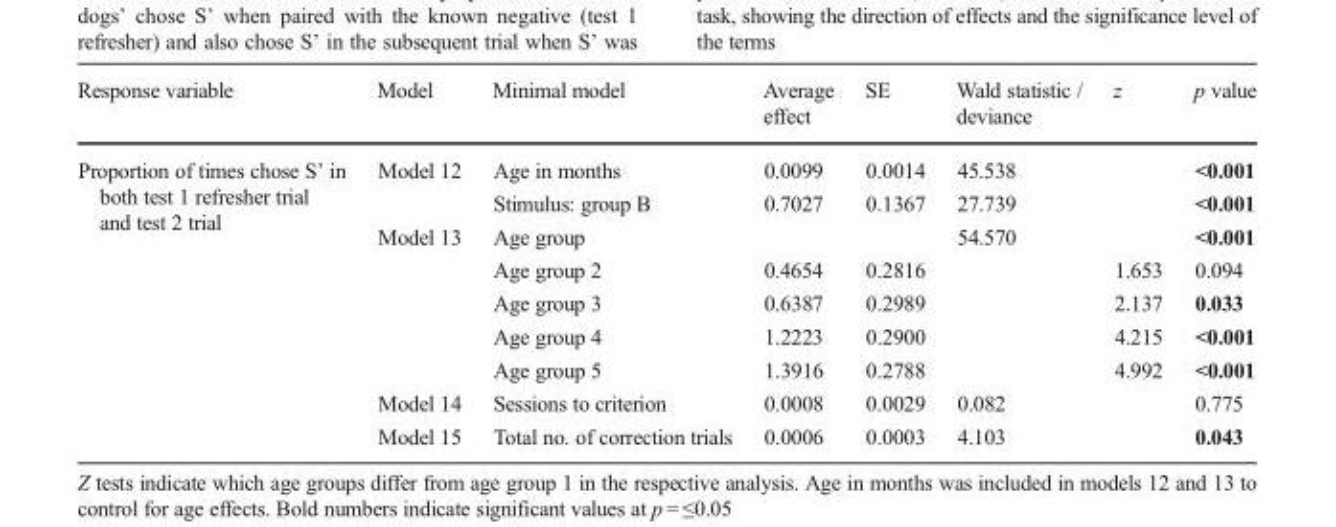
<table><thead><tr><td>Response variable</td><td>Model</td><td>Minimal model</td><td>Average effect</td><td>SE</td><td>Wald statistic / deviance</td><td>z</td><td>p value</td></tr></thead><tbody><tr><td rowspan="9">Proportion of times chose S’ in both test 1 refresher trial and test 2 trial</td><td rowspan="2">Model 12</td><td>Age in months</td><td>0.0099</td><td>0.0014</td><td>45.538</td><td></td><td>&lt;0.001</td></tr><tr><td>Stimulus: group B</td><td>0.7027</td><td>0.1367</td><td>27.739</td><td></td><td>&lt;0.001</td></tr><tr><td rowspan="5">Model 13</td><td>Age group</td><td></td><td></td><td>54.570</td><td></td><td>&lt;0.001</td></tr><tr><td>Age group 2</td><td>0.4654</td><td>0.2816</td><td></td><td>1.653</td><td>0.094</td></tr><tr><td>Age group 3</td><td>0.6387</td><td>0.2989</td><td></td><td>2.137</td><td>0.033</td></tr><tr><td>Age group 4</td><td>1.2223</td><td>0.2900</td><td></td><td>4.215</td><td>&lt;0.001</td></tr><tr><td>Age group 5</td><td>1.3916</td><td>0.2788</td><td></td><td>4.992</td><td>&lt;0.001</td></tr><tr><td>Model 14</td><td>Sessions to criterion</td><td>0.0008</td><td>0.0029</td><td>0.082</td><td></td><td>0.775</td></tr><tr><td>Model 15</td><td>Total no. of correction trials</td><td>0.0006</td><td>0.0003</td><td>4.103</td><td></td><td>0.043</td></tr></tbody></table>